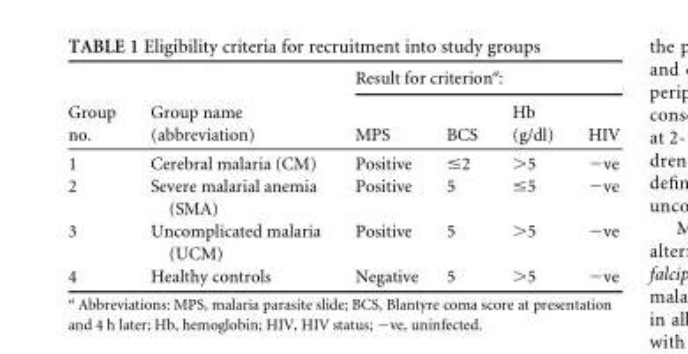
<table><thead><tr><td rowspan="2">Group no.</td><td rowspan="2">Group name (abbreviation)</td><td colspan="4">Result for criterion<sup>a</sup>:</td></tr><tr><td>MPS</td><td>BCS</td><td>Hb (g/dl)</td><td>HIV</td></tr></thead><tbody><tr><td>1</td><td>Cerebral malaria (CM)</td><td>Positive</td><td>≤2</td><td>&gt;5</td><td>−ve</td></tr><tr><td>2</td><td>Severe malarial anemia (SMA)</td><td>Positive</td><td>5</td><td>≤5</td><td>−ve</td></tr><tr><td>3</td><td>Uncomplicated malaria (UCM)</td><td>Positive</td><td>5</td><td>&gt;5</td><td>−ve</td></tr><tr><td>4</td><td>Healthy controls</td><td>Negative</td><td>5</td><td>&gt;5</td><td>−ve</td></tr></tbody></table>